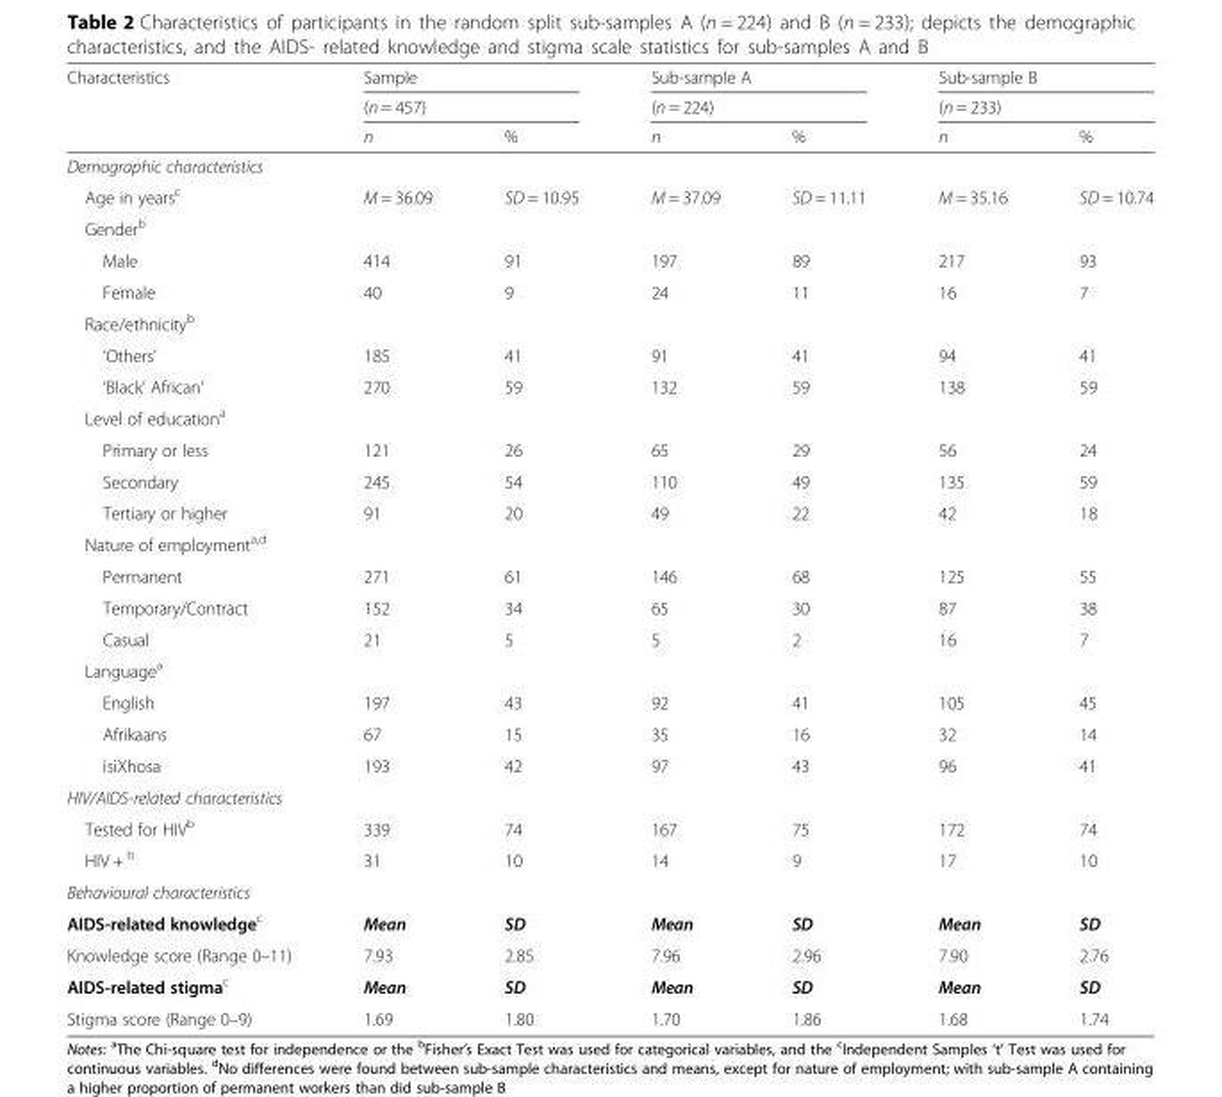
<table><thead><tr><td rowspan="3">Characteristics</td><td rowspan="2" colspan="2">Sample (n = 457)</td><td rowspan="2" colspan="2">Sub-sample A (n = 224)</td><td rowspan="2" colspan="2">Sub-sample B (n = 233)</td></tr><tr></tr><tr><td>n</td><td>%</td><td>n</td><td>%</td><td>n</td><td>%</td></tr></thead><tbody><tr><td colspan="7">Demographic characteristics</td></tr><tr><td>Age in years<sup>c</sup></td><td>M = 36.09</td><td>SD = 10.95</td><td>M = 37.09</td><td>SD = 11.11</td><td>M = 35.16</td><td>SD = 10.74</td></tr><tr><td colspan="7">Gender<sup>b</sup></td></tr><tr><td>Male</td><td>414</td><td>91</td><td>197</td><td>89</td><td>217</td><td>93</td></tr><tr><td>Female</td><td>40</td><td>9</td><td>24</td><td>11</td><td>16</td><td>7</td></tr><tr><td colspan="7">Race/ethnicity<sup>b</sup></td></tr><tr><td>‘Others’</td><td>185</td><td>41</td><td>91</td><td>41</td><td>94</td><td>41</td></tr><tr><td>‘Black’ African’</td><td>270</td><td>59</td><td>132</td><td>59</td><td>138</td><td>59</td></tr><tr><td colspan="7">Level of education<sup>a</sup></td></tr><tr><td>Primary or less</td><td>121</td><td>26</td><td>65</td><td>29</td><td>56</td><td>24</td></tr><tr><td>Secondary</td><td>245</td><td>54</td><td>110</td><td>49</td><td>135</td><td>59</td></tr><tr><td>Tertiary or higher</td><td>91</td><td>20</td><td>49</td><td>22</td><td>42</td><td>18</td></tr><tr><td colspan="7">Nature of employment<sup>a,d</sup></td></tr><tr><td>Permanent</td><td>271</td><td>61</td><td>146</td><td>68</td><td>125</td><td>55</td></tr><tr><td>Temporary/Contract</td><td>152</td><td>34</td><td>65</td><td>30</td><td>87</td><td>38</td></tr><tr><td>Casual</td><td>21</td><td>5</td><td>5</td><td>2</td><td>16</td><td>7</td></tr><tr><td colspan="7">Language<sup>a</sup></td></tr><tr><td>English</td><td>197</td><td>43</td><td>92</td><td>41</td><td>105</td><td>45</td></tr><tr><td>Afrikaans</td><td>67</td><td>15</td><td>35</td><td>16</td><td>32</td><td>14</td></tr><tr><td>isiXhosa</td><td>193</td><td>42</td><td>97</td><td>43</td><td>96</td><td>41</td></tr><tr><td colspan="7">HIV/AIDS-related characteristics</td></tr><tr><td>Tested for HIV<sup>b</sup></td><td>339</td><td>74</td><td>167</td><td>75</td><td>172</td><td>74</td></tr><tr><td>HIV + <sup>b</sup></td><td>31</td><td>10</td><td>14</td><td>9</td><td>17</td><td>10</td></tr><tr><td colspan="7">Behavioural characteristics</td></tr><tr><td>AIDS-related knowledge<sup>c</sup></td><td>Mean</td><td>SD</td><td>Mean</td><td>SD</td><td>Mean</td><td>SD</td></tr><tr><td>Knowledge score (Range 0–11)</td><td>7.93</td><td>2.85</td><td>7.96</td><td>2.96</td><td>7.90</td><td>2.76</td></tr><tr><td>AIDS-related stigma<sup>c</sup></td><td>Mean</td><td>SD</td><td>Mean</td><td>SD</td><td>Mean</td><td>SD</td></tr><tr><td>Stigma score (Range 0–9)</td><td>1.69</td><td>1.80</td><td>1.70</td><td>1.86</td><td>1.68</td><td>1.74</td></tr></tbody></table>